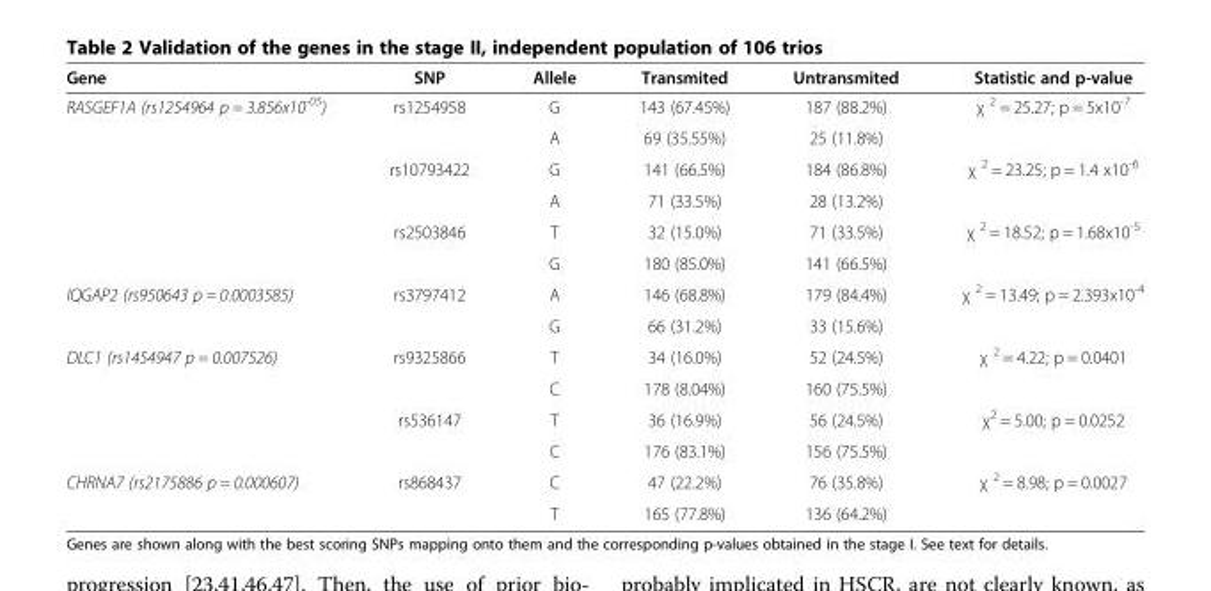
<table><thead><tr><td>Gene</td><td>SNP</td><td>Allele</td><td>Transmited</td><td>Untransmited</td><td>Statistic and p-value</td></tr></thead><tbody><tr><td rowspan="6">RASGEF1A (rs1254964 p = 3.856x10<sup>-05</sup>)</td><td rowspan="2">rs1254958</td><td>G</td><td>143 (67.45%)</td><td>187 (88.2%)</td><td rowspan="2">χ <sup>2</sup> = 25.27; p = 5x10<sup>-7</sup></td></tr><tr><td>A</td><td>69 (35.55%)</td><td>25 (11.8%)</td></tr><tr><td rowspan="2">rs10793422</td><td>G</td><td>141 (66.5%)</td><td>184 (86.8%)</td><td rowspan="2">χ <sup>2</sup> = 23.25; p = 1.4 x10<sup>-6</sup></td></tr><tr><td>A</td><td>71 (33.5%)</td><td>28 (13.2%)</td></tr><tr><td rowspan="2">rs2503846</td><td>T</td><td>32 (15.0%)</td><td>71 (33.5%)</td><td rowspan="2">χ <sup>2</sup> = 18.52; p = 1.68x10<sup>-5</sup></td></tr><tr><td>G</td><td>180 (85.0%)</td><td>141 (66.5%)</td></tr><tr><td rowspan="2">IQGAP2 (rs950643 p = 0.0003585)</td><td rowspan="2">rs3797412</td><td>A</td><td>146 (68.8%)</td><td>179 (84.4%)</td><td rowspan="2">χ <sup>2</sup> = 13.49; p = 2.393x10<sup>-4</sup></td></tr><tr><td>G</td><td>66 (31.2%)</td><td>33 (15.6%)</td></tr><tr><td rowspan="4">DLC1 (rs1454947 p = 0.007526)</td><td rowspan="2">rs9325866</td><td>T</td><td>34 (16.0%)</td><td>52 (24.5%)</td><td rowspan="2">χ <sup>2</sup> = 4.22; p = 0.0401</td></tr><tr><td>C</td><td>178 (8.04%)</td><td>160 (75.5%)</td></tr><tr><td rowspan="2">rs536147</td><td>T</td><td>36 (16.9%)</td><td>56 (24.5%)</td><td rowspan="2">χ<sup>2</sup> = 5.00; p = 0.0252</td></tr><tr><td>C</td><td>176 (83.1%)</td><td>156 (75.5%)</td></tr><tr><td rowspan="2">CHRNA7 (rs2175886 p = 0.000607)</td><td rowspan="2">rs868437</td><td>C</td><td>47 (22.2%)</td><td>76 (35.8%)</td><td rowspan="2">χ <sup>2</sup> = 8.98; p = 0.0027</td></tr><tr><td>T</td><td>165 (77.8%)</td><td>136 (64.2%)</td></tr></tbody></table>